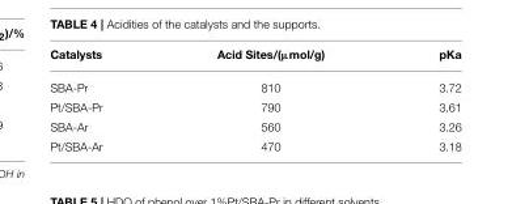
<table><thead><tr><td>Catalysts</td><td>Acid Sites/(µmol/g)</td><td>pKa</td></tr></thead><tbody><tr><td>SBA-Pr</td><td>810</td><td>3.72</td></tr><tr><td>Pt/SBA-Pr</td><td>790</td><td>3.61</td></tr><tr><td>SBA-Ar</td><td>560</td><td>3.26</td></tr><tr><td>Pt/SBA-Ar</td><td>470</td><td>3.18</td></tr></tbody></table>